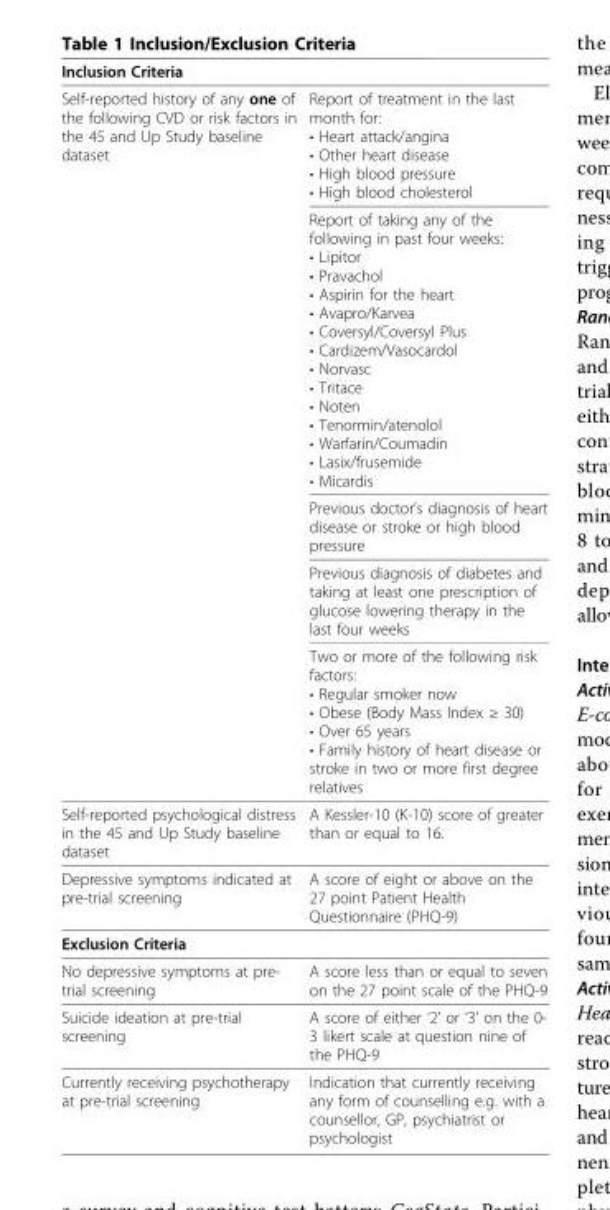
<table><thead><tr><td>Inclusion Criteria</td><td></td></tr></thead><tbody><tr><td rowspan="5">Self-reported history of any one of the following CVD or risk factors in the 45 and Up Study baseline dataset</td><td>Report of treatment in the last month for: • Heart attack/angina • Other heart disease • High blood pressure • High blood cholesterol</td></tr><tr><td>Report of taking any of the following in past four weeks: • Lipitor • Pravachol • Aspirin for the heart • Avapro/Karvea • Coversyl/Coversyl Plus • Cardizem/Vasocardol • Norvasc • Tritace • Noten • Tenormin/atenolol • Warfarin/Coumadin • Lasix/frusemide • Micardis</td></tr><tr><td>Previous doctor’s diagnosis of heart disease or stroke or high blood pressure</td></tr><tr><td>Previous diagnosis of diabetes and taking at least one prescription of glucose lowering therapy in the last four weeks</td></tr><tr><td>Two or more of the following risk factors: • Regular smoker now • Obese (Body Mass Index ≥ 30) • Over 65 years • Family history of heart disease or stroke in two or more first degree relatives</td></tr><tr><td>Self-reported psychological distress in the 45 and Up Study baseline dataset</td><td>A Kessler-10 (K-10) score of greater than or equal to 16.</td></tr><tr><td>Depressive symptoms indicated at pre-trial screening</td><td>A score of eight or above on the 27 point Patient Health Questionnaire (PHQ-9)</td></tr><tr><td colspan="2">Exclusion Criteria</td></tr><tr><td>No depressive symptoms at pre- trial screening</td><td>A score less than or equal to seven on the 27 point scale of the PHQ-9</td></tr><tr><td>Suicide ideation at pre-trial screening</td><td>A score of either ‘2’ or ‘3’ on the 0- 3 likert scale at question nine of the PHQ-9</td></tr><tr><td>Currently receiving psychotherapy at pre-trial screening</td><td>Indication that currently receiving any form of counselling e.g. with a counsellor, GP, psychiatrist or psychologist</td></tr></tbody></table>